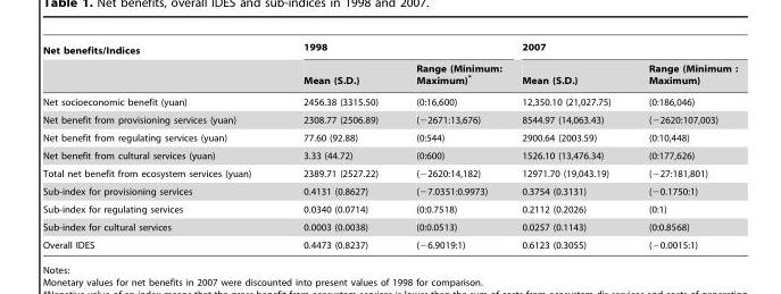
<table><thead><tr><td rowspan="2">Net benefits/Indices</td><td colspan="2">1998</td><td colspan="2">2007</td></tr><tr><td>Mean (S.D.)</td><td>Range (Minimum: Maximum)*</td><td>Mean (S.D.)</td><td>Range (Minimum : Maximum)</td></tr></thead><tbody><tr><td>Net socioeconomic benefit (yuan)</td><td>2456.38 (3315.50)</td><td>(0:16,600)</td><td>12,350.10 (21,027.75)</td><td>(0:186,046)</td></tr><tr><td>Net benefit from provisioning services (yuan)</td><td>2308.77 (2506.89)</td><td>(−2671:13,676)</td><td>8544.97 (14,063.43)</td><td>(−2620:107,003)</td></tr><tr><td>Net benefit from regulating services (yuan)</td><td>77.60 (92.88)</td><td>(0:544)</td><td>2900.64 (2003.59)</td><td>(0:10,448)</td></tr><tr><td>Net benefit from cultural services (yuan)</td><td>3.33 (44.72)</td><td>(0:600)</td><td>1526.10 (13,476.34)</td><td>(0:177,626)</td></tr><tr><td>Total net benefit from ecosystem services (yuan)</td><td>2389.71 (2527.22)</td><td>(−2620:14,182)</td><td>12971.70 (19,043.19)</td><td>(−27:181,801)</td></tr><tr><td>Sub-index for provisioning services</td><td>0.4131 (0.8627)</td><td>(−7.0351:0.9973)</td><td>0.3754 (0.3131)</td><td>(−0.1750:1)</td></tr><tr><td>Sub-index for regulating services</td><td>0.0340 (0.0714)</td><td>(0:0.7518)</td><td>0.2112 (0.2026)</td><td>(0:1)</td></tr><tr><td>Sub-index for cultural services</td><td>0.0003 (0.0038)</td><td>(0:0.0513)</td><td>0.0257 (0.1143)</td><td>(0:0.8568)</td></tr><tr><td>Overall IDES</td><td>0.4473 (0.8237)</td><td>(−6.9019:1)</td><td>0.6123 (0.3055)</td><td>(−0.0015:1)</td></tr></tbody></table>